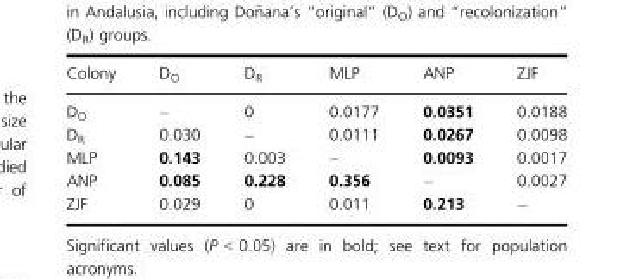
<table><thead><tr><td>Colony</td><td>D<sub>O</sub></td><td>D<sub>R</sub></td><td>MLP</td><td>ANP</td><td>ZJF</td></tr></thead><tbody><tr><td>D<sub>O</sub></td><td>–</td><td>0</td><td>0.0177</td><td>0.0351</td><td>0.0188</td></tr><tr><td>D<sub>R</sub></td><td>0.030</td><td>–</td><td>0.0111</td><td>0.0267</td><td>0.0098</td></tr><tr><td>MLP</td><td>0.143</td><td>0.003</td><td>–</td><td>0.0093</td><td>0.0017</td></tr><tr><td>ANP</td><td>0.085</td><td>0.228</td><td>0.356</td><td>–</td><td>0.0027</td></tr><tr><td>ZJF</td><td>0.029</td><td>0</td><td>0.011</td><td>0.213</td><td>–</td></tr></tbody></table>